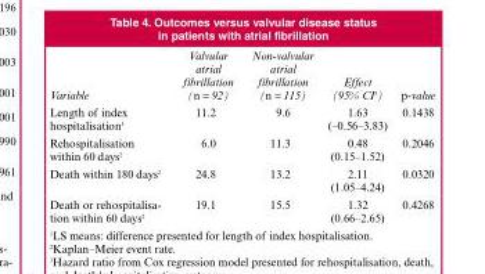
<table><thead><tr><td>Variable</td><td>Valvular atrial fibrillation (n = 92)</td><td>Non-valvular atrial fibrillation (n = 115)</td><td>Effect (95% CI3)</td><td>p-value</td></tr></thead><tbody><tr><td>Length of index hospitalisation<sup>1</sup></td><td>11.2</td><td>9.6</td><td>1.63 (–0.56–3.83)</td><td>0.1438</td></tr><tr><td>Rehospitalisation within 60 days<sup>2</sup></td><td>6.0</td><td>11.3</td><td>0.48 (0.15–1.52)</td><td>0.2046</td></tr><tr><td>Death within 180 days<sup>2</sup></td><td>24.8</td><td>13.2</td><td>2.11 (1.05–4.24)</td><td>0.0320</td></tr><tr><td>Death or rehospitalisa- tion within 60 days2</td><td>19.1</td><td>15.5</td><td>1.32 (0.66–2.65)</td><td>0.4268</td></tr></tbody></table>